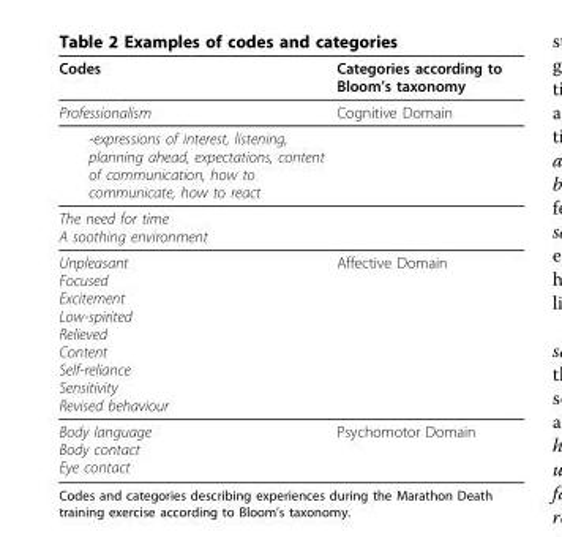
<table><thead><tr><td>Codes</td><td>Categories according to Bloom’s taxonomy</td></tr></thead><tbody><tr><td>Professionalism</td><td>Cognitive Domain</td></tr><tr><td colspan="2">-expressions of interest, listening, planning ahead, expectations, content of communication, how to communicate, how to react</td></tr><tr><td colspan="2">The need for time A soothing environment</td></tr><tr><td>Unpleasant Focused Excitement Low-spirited Relieved Content Self-reliance Sensitivity Revised behaviour</td><td>Affective Domain</td></tr><tr><td>Body language Body contact Eye contact</td><td>Psychomotor Domain</td></tr></tbody></table>